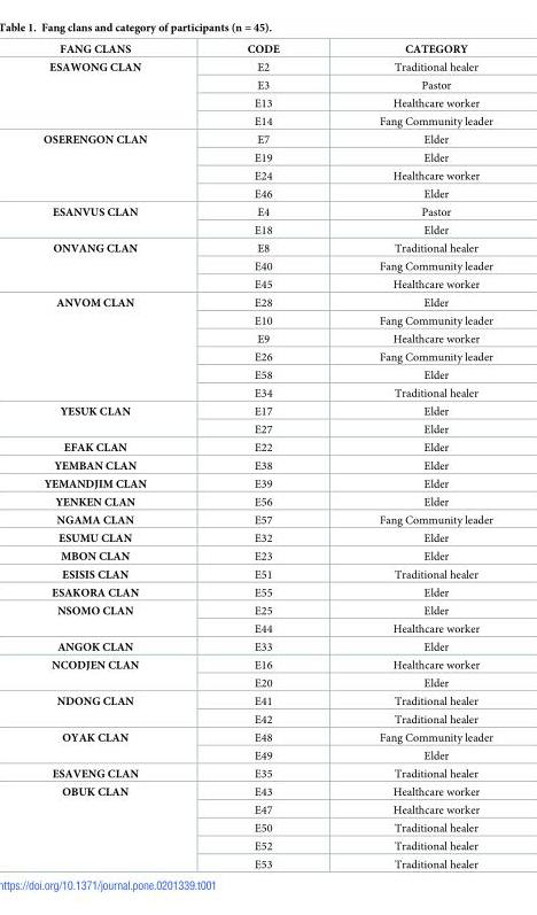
<table><thead><tr><td>FANG CLANS</td><td>CODE</td><td>CATEGORY</td></tr></thead><tbody><tr><td rowspan="4">ESAWONG CLAN</td><td>E2</td><td>Traditional healer</td></tr><tr><td>E3</td><td>Pastor</td></tr><tr><td>E13</td><td>Healthcare worker</td></tr><tr><td>E14</td><td>Fang Community leader</td></tr><tr><td rowspan="4">OSERENGON CLAN</td><td>E7</td><td>Elder</td></tr><tr><td>E19</td><td>Elder</td></tr><tr><td>E24</td><td>Healthcare worker</td></tr><tr><td>E46</td><td>Elder</td></tr><tr><td rowspan="2">ESANVUS CLAN</td><td>E4</td><td>Pastor</td></tr><tr><td>E18</td><td>Elder</td></tr><tr><td rowspan="3">ONVANG CLAN</td><td>E8</td><td>Traditional healer</td></tr><tr><td>E40</td><td>Fang Community leader</td></tr><tr><td>E45</td><td>Healthcare worker</td></tr><tr><td rowspan="6">ANVOM CLAN</td><td>E28</td><td>Elder</td></tr><tr><td>E10</td><td>Fang Community leader</td></tr><tr><td>E9</td><td>Healthcare worker</td></tr><tr><td>E26</td><td>Fang Community leader</td></tr><tr><td>E58</td><td>Elder</td></tr><tr><td>E34</td><td>Traditional healer</td></tr><tr><td rowspan="2">YESUK CLAN</td><td>E17</td><td>Elder</td></tr><tr><td>E27</td><td>Elder</td></tr><tr><td>EFAK CLAN</td><td>E22</td><td>Elder</td></tr><tr><td>YEMBAN CLAN</td><td>E38</td><td>Elder</td></tr><tr><td>YEMANDJIM CLAN</td><td>E39</td><td>Elder</td></tr><tr><td>YENKEN CLAN</td><td>E56</td><td>Elder</td></tr><tr><td>NGAMA CLAN</td><td>E57</td><td>Fang Community leader</td></tr><tr><td>ESUMU CLAN</td><td>E32</td><td>Elder</td></tr><tr><td>MBON CLAN</td><td>E23</td><td>Elder</td></tr><tr><td>ESISIS CLAN</td><td>E51</td><td>Traditional healer</td></tr><tr><td>ESAKORA CLAN</td><td>E55</td><td>Elder</td></tr><tr><td rowspan="2">NSOMO CLAN</td><td>E25</td><td>Elder</td></tr><tr><td>E44</td><td>Healthcare worker</td></tr><tr><td>ANGOK CLAN</td><td>E33</td><td>Elder</td></tr><tr><td rowspan="2">NCODJEN CLAN</td><td>E16</td><td>Healthcare worker</td></tr><tr><td>E20</td><td>Elder</td></tr><tr><td rowspan="2">NDONG CLAN</td><td>E41</td><td>Traditional healer</td></tr><tr><td>E42</td><td>Traditional healer</td></tr><tr><td rowspan="2">OYAK CLAN</td><td>E48</td><td>Fang Community leader</td></tr><tr><td>E49</td><td>Elder</td></tr><tr><td>ESAVENG CLAN</td><td>E35</td><td>Traditional healer</td></tr><tr><td rowspan="5">OBUK CLAN</td><td>E43</td><td>Healthcare worker</td></tr><tr><td>E47</td><td>Healthcare worker</td></tr><tr><td>E50</td><td>Traditional healer</td></tr><tr><td>E52</td><td>Traditional healer</td></tr><tr><td>E53</td><td>Traditional healer</td></tr></tbody></table>